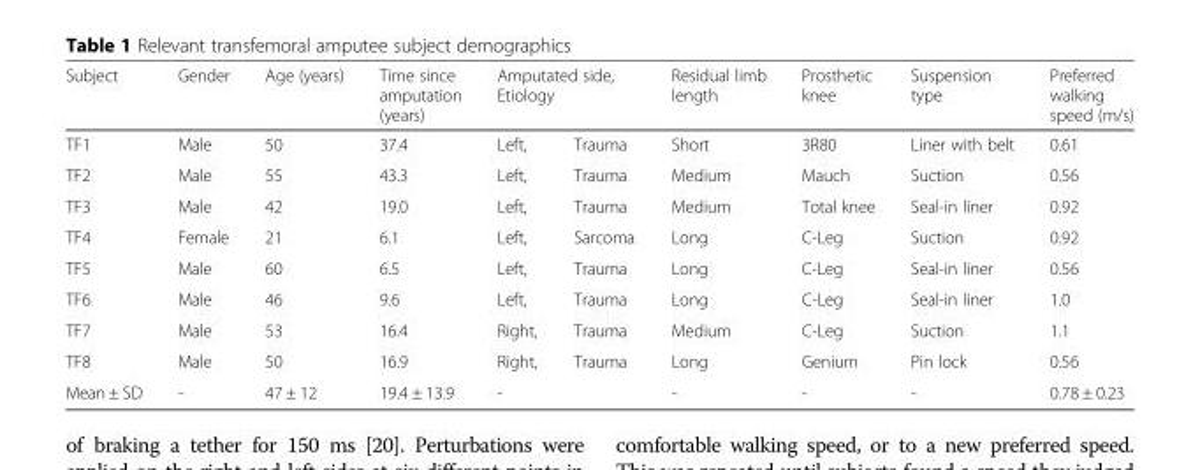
<table><thead><tr><td rowspan="2">Subject TF1</td><td rowspan="2">Gender Male</td><td rowspan="2">Age (years) 50</td><td rowspan="2">Time since amputation (years) 37.4</td><td colspan="2">Amputated side, Etiology</td><td rowspan="2">Residual limb length Short</td><td rowspan="2">Prosthetic knee 3R80</td><td rowspan="2">Suspension type Liner with belt</td><td rowspan="2">Preferred walking speed (m/s) 0.61</td></tr><tr><td>Left,</td><td>Trauma</td></tr></thead><tbody><tr><td>TF2</td><td>Male</td><td>55</td><td>43.3</td><td>Left,</td><td>Trauma</td><td>Medium</td><td>Mauch</td><td>Suction</td><td>0.56</td></tr><tr><td>TF3</td><td>Male</td><td>42</td><td>19.0</td><td>Left,</td><td>Trauma</td><td>Medium</td><td>Total knee</td><td>Seal-in liner</td><td>0.92</td></tr><tr><td>TF4</td><td>Female</td><td>21</td><td>6.1</td><td>Left,</td><td>Sarcoma</td><td>Long</td><td>C-Leg</td><td>Suction</td><td>0.92</td></tr><tr><td>TF5</td><td>Male</td><td>60</td><td>6.5</td><td>Left,</td><td>Trauma</td><td>Long</td><td>C-Leg</td><td>Seal-in liner</td><td>0.56</td></tr><tr><td>TF6</td><td>Male</td><td>46</td><td>9.6</td><td>Left,</td><td>Trauma</td><td>Long</td><td>C-Leg</td><td>Seal-in liner</td><td>1.0</td></tr><tr><td>TF7</td><td>Male</td><td>53</td><td>16.4</td><td>Right,</td><td>Trauma</td><td>Medium</td><td>C-Leg</td><td>Suction</td><td>1.1</td></tr><tr><td>TF8</td><td>Male</td><td>50</td><td>16.9</td><td>Right,</td><td>Trauma</td><td>Long</td><td>Genium</td><td>Pin lock</td><td>0.56</td></tr><tr><td>Mean ± SD</td><td>-</td><td>47 ± 12</td><td>19.4 ± 13.9</td><td colspan="2">-</td><td>-</td><td>-</td><td>-</td><td>0.78 ± 0.23</td></tr></tbody></table>